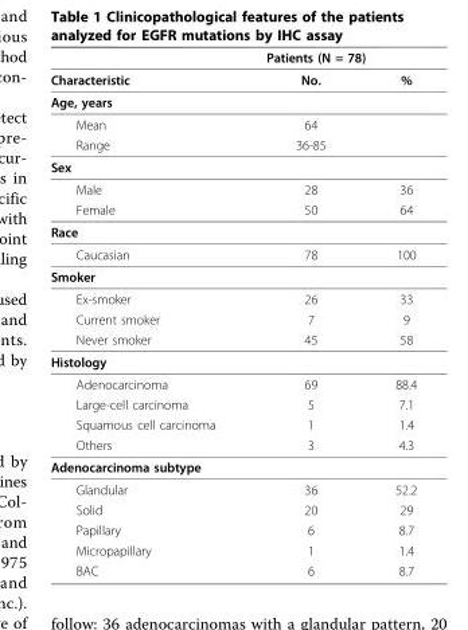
<table><thead><tr><td rowspan="2">Characteristic</td><td colspan="2">Patients (N = 78)</td></tr><tr><td>No.</td><td>%</td></tr></thead><tbody><tr><td colspan="3">Age, years</td></tr><tr><td>Mean</td><td>64</td><td></td></tr><tr><td>Range</td><td>36-85</td><td></td></tr><tr><td colspan="3">Sex</td></tr><tr><td>Male</td><td>28</td><td>36</td></tr><tr><td>Female</td><td>50</td><td>64</td></tr><tr><td colspan="3">Race</td></tr><tr><td>Caucasian</td><td>78</td><td>100</td></tr><tr><td colspan="3">Smoker</td></tr><tr><td>Ex-smoker</td><td>26</td><td>33</td></tr><tr><td>Current smoker</td><td>7</td><td>9</td></tr><tr><td>Never smoker</td><td>45</td><td>58</td></tr><tr><td colspan="3">Histology</td></tr><tr><td>Adenocarcinoma</td><td>69</td><td>88.4</td></tr><tr><td>Large-cell carcinoma</td><td>5</td><td>7.1</td></tr><tr><td>Squamous cell carcinoma</td><td>1</td><td>1.4</td></tr><tr><td>Others</td><td>3</td><td>4.3</td></tr><tr><td colspan="3">Adenocarcinoma subtype</td></tr><tr><td>Glandular</td><td>36</td><td>52.2</td></tr><tr><td>Solid</td><td>20</td><td>29</td></tr><tr><td>Papillary</td><td>6</td><td>8.7</td></tr><tr><td>Micropapillary</td><td>1</td><td>1.4</td></tr><tr><td>BAC</td><td>6</td><td>8.7</td></tr></tbody></table>